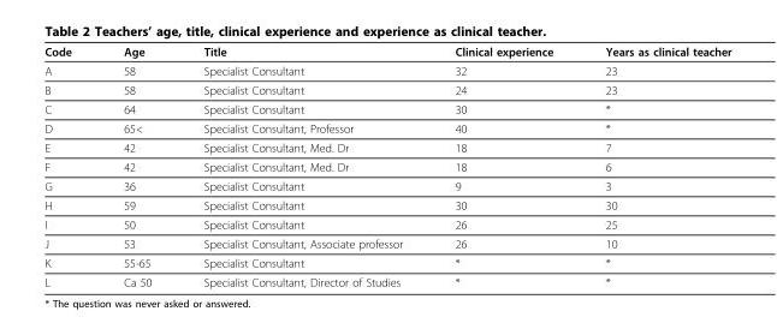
<table><thead><tr><td>Code</td><td>Age</td><td>Title</td><td>Clinical experience</td><td>Years as clinical teacher</td></tr></thead><tbody><tr><td>A</td><td>58</td><td>Specialist Consultant</td><td>32</td><td>23</td></tr><tr><td>B</td><td>58</td><td>Specialist Consultant</td><td>24</td><td>23</td></tr><tr><td>C</td><td>64</td><td>Specialist Consultant</td><td>30</td><td>*</td></tr><tr><td>D</td><td>65&lt;</td><td>Specialist Consultant, Professor</td><td>40</td><td>*</td></tr><tr><td>E</td><td>42</td><td>Specialist Consultant, Med. Dr</td><td>18</td><td>7</td></tr><tr><td>F</td><td>42</td><td>Specialist Consultant, Med. Dr</td><td>18</td><td>6</td></tr><tr><td>G</td><td>36</td><td>Specialist Consultant</td><td>9</td><td>3</td></tr><tr><td>H</td><td>59</td><td>Specialist Consultant</td><td>30</td><td>30</td></tr><tr><td>I</td><td>50</td><td>Specialist Consultant</td><td>26</td><td>25</td></tr><tr><td>J</td><td>53</td><td>Specialist Consultant, Associate professor</td><td>26</td><td>10</td></tr><tr><td>K</td><td>55-65</td><td>Specialist Consultant</td><td>*</td><td>*</td></tr><tr><td>L</td><td>Ca 50</td><td>Specialist Consultant, Director of Studies</td><td>*</td><td>*</td></tr></tbody></table>